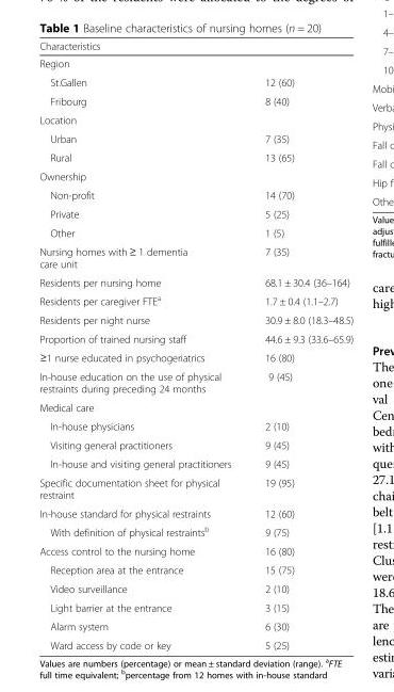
<table><thead><tr><td>Characteristics</td><td></td></tr></thead><tbody><tr><td colspan="2">Region</td></tr><tr><td>St.Gallen</td><td>12 (60)</td></tr><tr><td>Fribourg</td><td>8 (40)</td></tr><tr><td colspan="2">Location</td></tr><tr><td>Urban</td><td>7 (35)</td></tr><tr><td>Rural</td><td>13 (65)</td></tr><tr><td colspan="2">Ownership</td></tr><tr><td>Non-profit</td><td>14 (70)</td></tr><tr><td>Private</td><td>5 (25)</td></tr><tr><td>Other</td><td>1 (5)</td></tr><tr><td>Nursing homes with ≥ 1 dementia care unit</td><td>7 (35)</td></tr><tr><td>Residents per nursing home</td><td>68.1 ± 30.4 (36–164)</td></tr><tr><td>Residents per caregiver FTE<sup>a</sup></td><td>1.7 ± 0.4 (1.1–2.7)</td></tr><tr><td>Residents per night nurse</td><td>30.9 ± 8.0 (18.3–48.5)</td></tr><tr><td>Proportion of trained nursing staff</td><td>44.6 ± 9.3 (33.6–65.9)</td></tr><tr><td>≥1 nurse educated in psychogeriatrics</td><td>16 (80)</td></tr><tr><td>In-house education on the use of physical restraints during preceding 24 months</td><td>9 (45)</td></tr><tr><td colspan="2">Medical care</td></tr><tr><td>In-house physicians</td><td>2 (10)</td></tr><tr><td>Visiting general practitioners</td><td>9 (45)</td></tr><tr><td>In-house and visiting general practitioners</td><td>9 (45)</td></tr><tr><td>Specific documentation sheet for physical restraint</td><td>19 (95)</td></tr><tr><td>In-house standard for physical restraints</td><td>12 (60)</td></tr><tr><td>With definition of physical restraints<sup>b</sup></td><td>9 (75)</td></tr><tr><td>Access control to the nursing home</td><td>16 (80)</td></tr><tr><td>Reception area at the entrance</td><td>15 (75)</td></tr><tr><td>Video surveillance</td><td>2 (10)</td></tr><tr><td>Light barrier at the entrance</td><td>3 (15)</td></tr><tr><td>Alarm system</td><td>6 (30)</td></tr><tr><td>Ward access by code or key</td><td>5 (25)</td></tr></tbody></table>